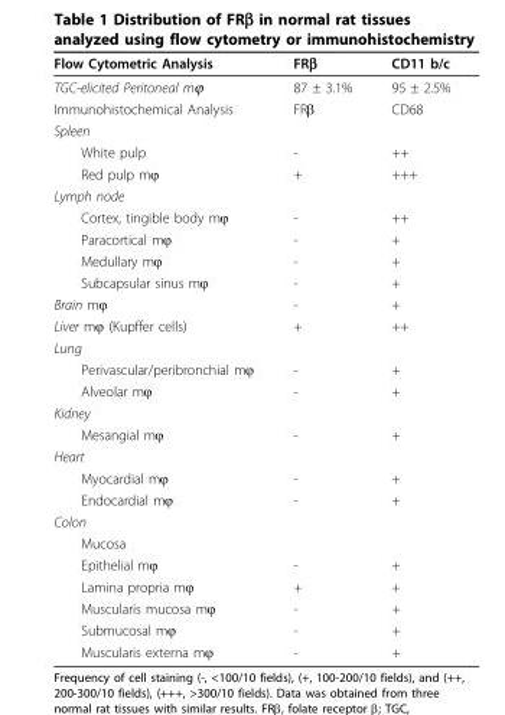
<table><thead><tr><td>Flow Cytometric Analysis</td><td>FRβ</td><td>CD11 b/c</td></tr></thead><tbody><tr><td>TGC-elicited Peritoneal mϕ</td><td>87 ± 3.1%</td><td>95 ± 2.5%</td></tr><tr><td>Immunohistochemical Analysis</td><td>FRβ</td><td>CD68</td></tr><tr><td colspan="3">Spleen</td></tr><tr><td>White pulp</td><td>-</td><td>++</td></tr><tr><td>Red pulp mϕ</td><td>+</td><td>+++</td></tr><tr><td colspan="3">Lymph node</td></tr><tr><td>Cortex, tingible body mϕ</td><td>-</td><td>++</td></tr><tr><td>Paracortical mϕ</td><td>-</td><td>+</td></tr><tr><td>Medullary mϕ</td><td>-</td><td>+</td></tr><tr><td>Subcapsular sinus mϕ</td><td>-</td><td>+</td></tr><tr><td>Brain mϕ</td><td>-</td><td>+</td></tr><tr><td>Liver mϕ (Kupffer cells)</td><td>+</td><td>++</td></tr><tr><td colspan="3">Lung</td></tr><tr><td>Perivascular/peribronchial mϕ</td><td>-</td><td>+</td></tr><tr><td>Alveolar mϕ</td><td>-</td><td>+</td></tr><tr><td colspan="3">Kidney</td></tr><tr><td>Mesangial mϕ</td><td>-</td><td>+</td></tr><tr><td colspan="3">Heart</td></tr><tr><td>Myocardial mϕ</td><td>-</td><td>+</td></tr><tr><td>Endocardial mϕ</td><td>-</td><td>+</td></tr><tr><td colspan="3">Colon</td></tr><tr><td colspan="3">Mucosa</td></tr><tr><td>Epithelial mϕ</td><td>-</td><td>+</td></tr><tr><td>Lamina propria mϕ</td><td>+</td><td>+</td></tr><tr><td>Muscularis mucosa mϕ</td><td>-</td><td>+</td></tr><tr><td>Submucosal mϕ</td><td>-</td><td>+</td></tr><tr><td>Muscularis externa mϕ</td><td>-</td><td>+</td></tr></tbody></table>